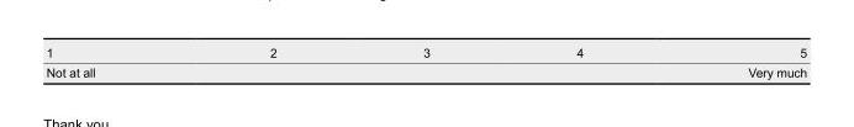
<table><tbody><tr><td>1</td><td>2</td><td>3</td><td>4</td><td>5</td></tr><tr><td>Not at all</td><td></td><td></td><td></td><td>Very much</td></tr></tbody></table>